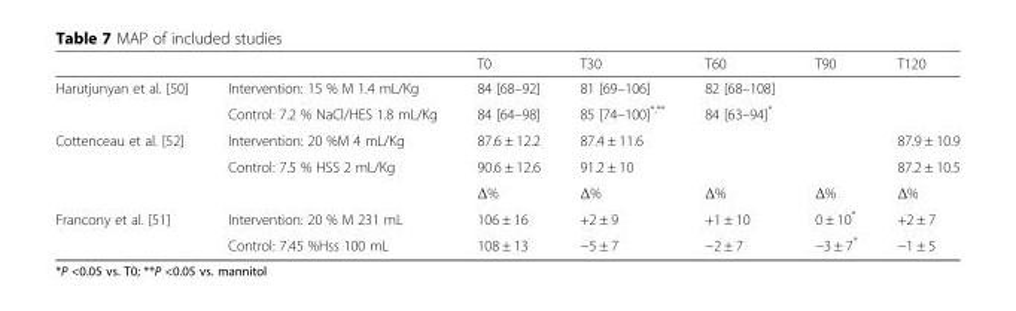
<table><thead><tr><td></td><td></td><td>T0</td><td>T30</td><td>T60</td><td>T90</td><td>T120</td></tr></thead><tbody><tr><td rowspan="2">Harutjunyan et al. [50]</td><td>Intervention: 15 % M 1.4 mL/Kg</td><td>84 [68–92]</td><td>81 [69–106]</td><td>82 [68–108]</td><td></td><td></td></tr><tr><td>Control: 7.2 % NaCl/HES 1.8 mL/Kg</td><td>84 [64–98]</td><td>85 [74–100]<sup>*,**</sup></td><td>84 [63–94]*</td><td></td><td></td></tr><tr><td rowspan="3">Cottenceau et al. [52]</td><td>Intervention: 20 %M 4 mL/Kg</td><td>87.6 ± 12.2</td><td>87.4 ± 11.6</td><td></td><td></td><td>87.9 ± 10.9</td></tr><tr><td>Control: 7.5 % HSS 2 mL/Kg</td><td>90.6 ± 12.6</td><td>91.2 ± 10</td><td></td><td></td><td>87.2 ± 10.5</td></tr><tr><td></td><td>Δ%</td><td>Δ%</td><td>Δ%</td><td>Δ%</td><td>Δ%</td></tr><tr><td rowspan="2">Francony et al. [51]</td><td>Intervention: 20 % M 231 mL</td><td>106 ± 16</td><td>+2 ± 9</td><td>+1 ± 10</td><td>0 ± 10*</td><td>+2 ± 7</td></tr><tr><td>Control: 7.45 %Hss 100 mL</td><td>108 ± 13</td><td>−5 ± 7</td><td>−2 ± 7</td><td>−3 ± 7*</td><td>−1 ± 5</td></tr></tbody></table>